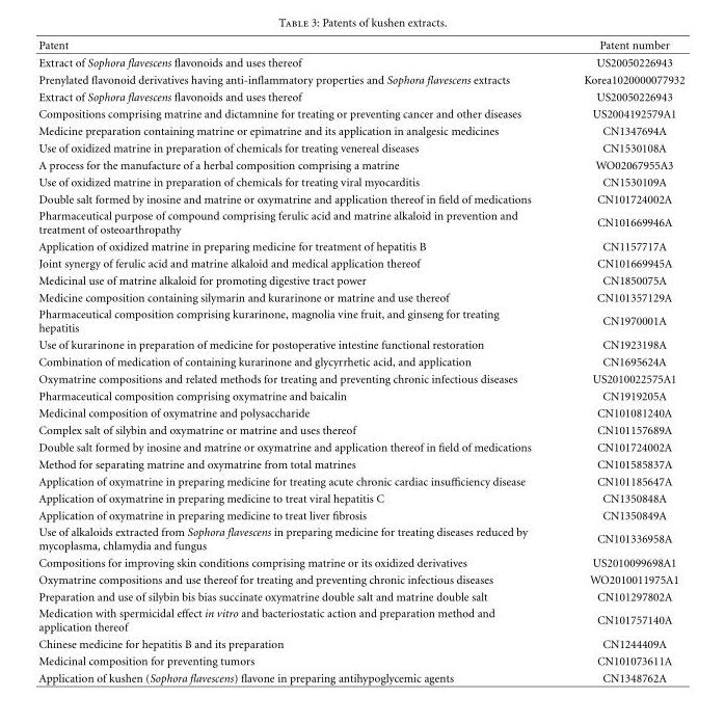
<table><thead><tr><td>Patent</td><td>Patent number</td></tr></thead><tbody><tr><td>Extract of Sophora flavescens flavonoids and uses thereof</td><td>US20050226943</td></tr><tr><td>Prenylated flavonoid derivatives having anti-inflammatory properties and Sophora flavescens extracts</td><td>Korea1020000077932</td></tr><tr><td>Extract of Sophora flavescens flavonoids and uses thereof</td><td>US20050226943</td></tr><tr><td>Compositions comprising matrine and dictamnine for treating or preventing cancer and other diseases</td><td>US2004192579A1</td></tr><tr><td>Medicine preparation containing matrine or epimatrine and its application in analgesic medicines</td><td>CN1347694A</td></tr><tr><td>Use of oxidized matrine in preparation of chemicals for treating venereal diseases</td><td>CN1530108A</td></tr><tr><td>A process for the manufacture of a herbal composition comprising a matrine</td><td>WO02067955A3</td></tr><tr><td>Use of oxidized matrine in preparation of chemicals for treating viral myocarditis</td><td>CN1530109A</td></tr><tr><td>Double salt formed by inosine and matrine or oxymatrine and application thereof in field of medications</td><td>CN101724002A</td></tr><tr><td>Pharmaceutical purpose of compound comprising ferulic acid and matrine alkaloid in prevention and treatment of osteoarthropathy</td><td>CN101669946A</td></tr><tr><td>Application of oxidized matrine in preparing medicine for treatment of hepatitis B</td><td>CN1157717A</td></tr><tr><td>Joint synergy of ferulic acid and matrine alkaloid and medical application thereof</td><td>CN101669945A</td></tr><tr><td>Medicinal use of matrine alkaloid for promoting digestive tract power</td><td>CN1850075A</td></tr><tr><td>Medicine composition containing silymarin and kurarinone or matrine and use thereof</td><td>CN101357129A</td></tr><tr><td>Pharmaceutical composition comprising kurarinone, magnolia vine fruit, and ginseng for treating hepatitis</td><td>CN1970001A</td></tr><tr><td>Use of kurarinone in preparation of medicine for postoperative intestine functional restoration</td><td>CN1923198A</td></tr><tr><td>Combination of medication of containing kurarinone and glycyrrhetic acid, and application</td><td>CN1695624A</td></tr><tr><td>Oxymatrine compositions and related methods for treating and preventing chronic infectious diseases</td><td>US2010022575A1</td></tr><tr><td>Pharmaceutical composition comprising oxymatrine and baicalin</td><td>CN1919205A</td></tr><tr><td>Medicinal composition of oxymatrine and polysaccharide</td><td>CN101081240A</td></tr><tr><td>Complex salt of silybin and oxymatrine or matrine and uses thereof</td><td>CN101157689A</td></tr><tr><td>Double salt formed by inosine and matrine or oxymatrine and application thereof in field of medications</td><td>CN101724002A</td></tr><tr><td>Method for separating matrine and oxymatrine from total matrines</td><td>CN101585837A</td></tr><tr><td>Application of oxymatrine in preparing medicine for treating acute chronic cardiac insufficiency disease</td><td>CN101185647A</td></tr><tr><td>Application of oxymatrine in preparing medicine to treat viral hepatitis C</td><td>CN1350848A</td></tr><tr><td>Application of oxymatrine in preparing medicine to treat liver fibrosis</td><td>CN1350849A</td></tr><tr><td>Use of alkaloids extracted from Sophora flavescens in preparing medicine for treating diseases reduced by mycoplasma, chlamydia and fungus</td><td>CN101336958A</td></tr><tr><td>Compositions for improving skin conditions comprising matrine or its oxidized derivatives</td><td>US2010099698A1</td></tr><tr><td>Oxymatrine compositions and use thereof for treating and preventing chronic infectious diseases</td><td>WO2010011975A1</td></tr><tr><td>Preparation and use of silybin bis bias succinate oxymatrine double salt and matrine double salt</td><td>CN101297802A</td></tr><tr><td>Medication with spermicidal effect in vitro and bacteriostatic action and preparation method and application thereof</td><td>CN101757140A</td></tr><tr><td>Chinese medicine for hepatitis B and its preparation</td><td>CN1244409A</td></tr><tr><td>Medicinal composition for preventing tumors</td><td>CN101073611A</td></tr><tr><td>Application of kushen (Sophora flavescens) flavone in preparing antihypoglycemic agents</td><td>CN1348762A</td></tr></tbody></table>